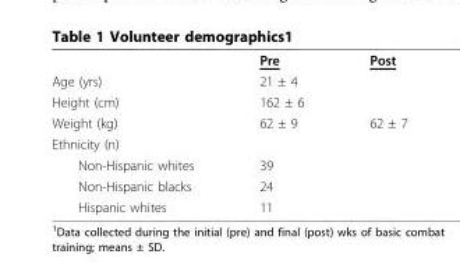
<table><thead><tr><td></td><td>Pre</td><td>Post</td></tr></thead><tbody><tr><td>Age (yrs)</td><td>21 ± 4</td><td></td></tr><tr><td>Height (cm)</td><td>162 ± 6</td><td></td></tr><tr><td>Weight (kg)</td><td>62 ± 9</td><td>62 ± 7</td></tr><tr><td colspan="3">Ethnicity (n)</td></tr><tr><td>Non-Hispanic whites</td><td>39</td><td></td></tr><tr><td>Non-Hispanic blacks</td><td>24</td><td></td></tr><tr><td>Hispanic whites</td><td>11</td><td></td></tr></tbody></table>